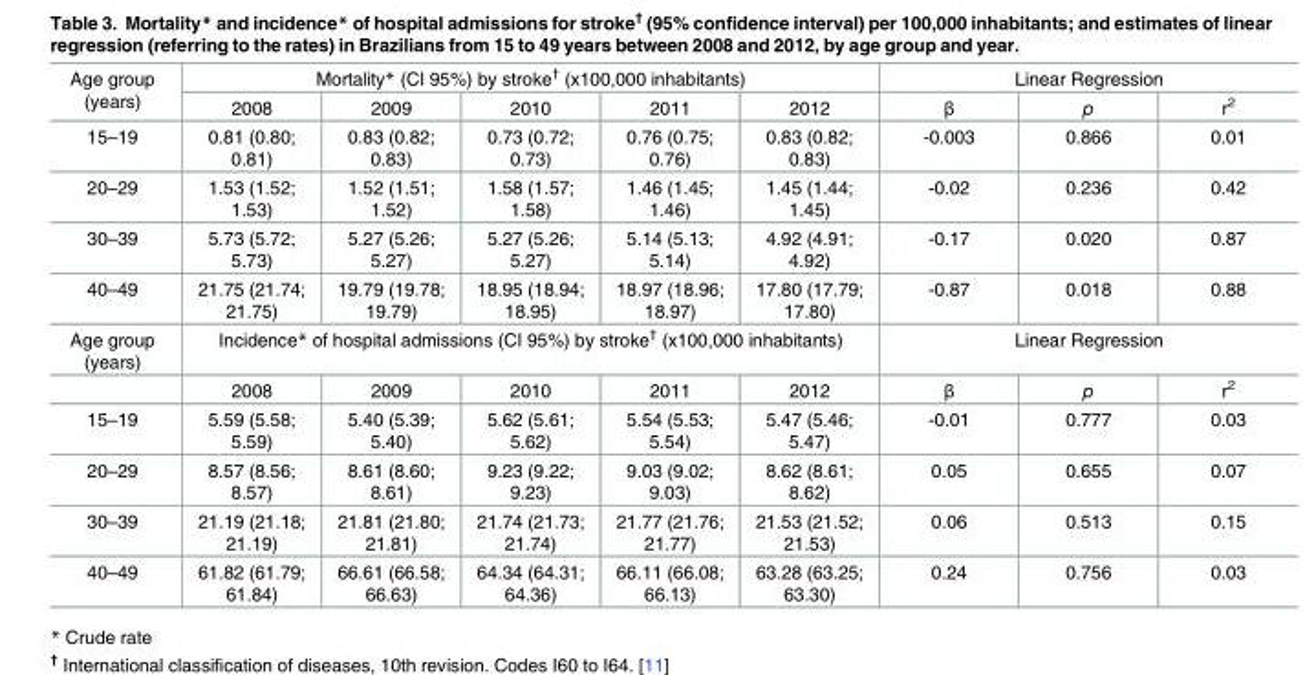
<table><tbody><tr><td rowspan="2">Age group (years)</td><td colspan="5">Mortality* (CI 95%) by stroke<sup>†</sup> (x100,000 inhabitants)</td><td colspan="3">Linear Regression</td></tr><tr><td>2008</td><td>2009</td><td>2010</td><td>2011</td><td>2012</td><td>β</td><td>p</td><td>r<sup>2</sup></td></tr><tr><td>15–19</td><td>0.81 (0.80; 0.81)</td><td>0.83 (0.82; 0.83)</td><td>0.73 (0.72; 0.73)</td><td>0.76 (0.75; 0.76)</td><td>0.83 (0.82; 0.83)</td><td>-0.003</td><td>0.866</td><td>0.01</td></tr><tr><td>20–29</td><td>1.53 (1.52; 1.53)</td><td>1.52 (1.51; 1.52)</td><td>1.58 (1.57; 1.58)</td><td>1.46 (1.45; 1.46)</td><td>1.45 (1.44; 1.45)</td><td>-0.02</td><td>0.236</td><td>0.42</td></tr><tr><td>30–39</td><td>5.73 (5.72; 5.73)</td><td>5.27 (5.26; 5.27)</td><td>5.27 (5.26; 5.27)</td><td>5.14 (5.13; 5.14)</td><td>4.92 (4.91; 4.92)</td><td>-0.17</td><td>0.020</td><td>0.87</td></tr><tr><td>40–49</td><td>21.75 (21.74; 21.75)</td><td>19.79 (19.78; 19.79)</td><td>18.95 (18.94; 18.95)</td><td>18.97 (18.96; 18.97)</td><td>17.80 (17.79; 17.80)</td><td>-0.87</td><td>0.018</td><td>0.88</td></tr><tr><td rowspan="2">Age group (years)</td><td colspan="5">Incidence* of hospital admissions (CI 95%) by stroke<sup>†</sup> (x100,000 inhabitants)</td><td colspan="3">Linear Regression</td></tr><tr><td>2008</td><td>2009</td><td>2010</td><td>2011</td><td>2012</td><td>β</td><td>p</td><td>r<sup>2</sup></td></tr><tr><td>15–19</td><td>5.59 (5.58; 5.59)</td><td>5.40 (5.39; 5.40)</td><td>5.62 (5.61; 5.62)</td><td>5.54 (5.53; 5.54)</td><td>5.47 (5.46; 5.47)</td><td>-0.01</td><td>0.777</td><td>0.03</td></tr><tr><td>20–29</td><td>8.57 (8.56; 8.57)</td><td>8.61 (8.60; 8.61)</td><td>9.23 (9.22; 9.23)</td><td>9.03 (9.02; 9.03)</td><td>8.62 (8.61; 8.62)</td><td>0.05</td><td>0.655</td><td>0.07</td></tr><tr><td>30–39</td><td>21.19 (21.18; 21.19)</td><td>21.81 (21.80; 21.81)</td><td>21.74 (21.73; 21.74)</td><td>21.77 (21.76; 21.77)</td><td>21.53 (21.52; 21.53)</td><td>0.06</td><td>0.513</td><td>0.15</td></tr><tr><td>40–49</td><td>61.82 (61.79; 61.84)</td><td>66.61 (66.58; 66.63)</td><td>64.34 (64.31; 64.36)</td><td>66.11 (66.08; 66.13)</td><td>63.28 (63.25; 63.30)</td><td>0.24</td><td>0.756</td><td>0.03</td></tr></tbody></table>